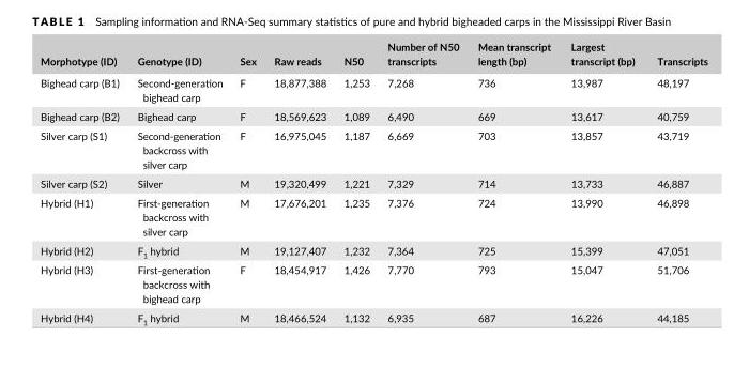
<table><thead><tr><td>Morphotype (ID)</td><td>Genotype (ID)</td><td>Sex</td><td>Raw reads</td><td>N50</td><td>Number of N50 transcripts</td><td>Mean transcript length (bp)</td><td>Largest transcript (bp)</td><td>Transcripts</td></tr></thead><tbody><tr><td>Bighead carp (B1)</td><td>Second- generation bighead carp</td><td>F</td><td>18,877,388</td><td>1,253</td><td>7,268</td><td>736</td><td>13,987</td><td>48,197</td></tr><tr><td>Bighead carp (B2)</td><td>Bighead carp</td><td>F</td><td>18,569,623</td><td>1,089</td><td>6,490</td><td>669</td><td>13,617</td><td>40,759</td></tr><tr><td>Silver carp (S1)</td><td>Second- generation backcross with silver carp</td><td>F</td><td>16,975,045</td><td>1,187</td><td>6,669</td><td>703</td><td>13,857</td><td>43,719</td></tr><tr><td>Silver carp (S2)</td><td>Silver</td><td>M</td><td>19,320,499</td><td>1,221</td><td>7,329</td><td>714</td><td>13,733</td><td>46,887</td></tr><tr><td>Hybrid (H1)</td><td>First- generation backcross with silver carp</td><td>M</td><td>17,676,201</td><td>1,235</td><td>7,376</td><td>724</td><td>13,990</td><td>46,898</td></tr><tr><td>Hybrid (H2)</td><td>F<sub>1</sub> hybrid</td><td>M</td><td>19,127,407</td><td>1,232</td><td>7,364</td><td>725</td><td>15,399</td><td>47,051</td></tr><tr><td>Hybrid (H3)</td><td>First- generation backcross with bighead carp</td><td>F</td><td>18,454,917</td><td>1,426</td><td>7,770</td><td>793</td><td>15,047</td><td>51,706</td></tr><tr><td>Hybrid (H4)</td><td>F<sub>1</sub> hybrid</td><td>M</td><td>18,466,524</td><td>1,132</td><td>6,935</td><td>687</td><td>16,226</td><td>44,185</td></tr></tbody></table>